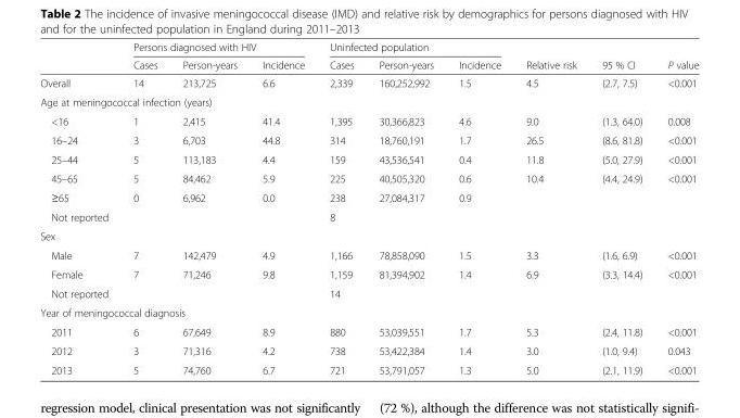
<table><thead><tr><td rowspan="2"></td><td colspan="3">Persons diagnosed with HIV</td><td colspan="3">Uninfected population</td><td rowspan="2">Relative risk</td><td rowspan="2">95 % CI</td><td rowspan="2">P value</td></tr><tr><td>Cases</td><td>Person-years</td><td>Incidence</td><td>Cases</td><td>Person-years</td><td>Incidence</td></tr></thead><tbody><tr><td>Overall</td><td>14</td><td>213,725</td><td>6.6</td><td>2,339</td><td>160,252,992</td><td>1.5</td><td>4.5</td><td>(2.7, 7.5)</td><td>&lt;0.001</td></tr><tr><td colspan="10">Age at meningococcal infection (years)</td></tr><tr><td>&lt;16</td><td>1</td><td>2,415</td><td>41.4</td><td>1,395</td><td>30,366,823</td><td>4.6</td><td>9.0</td><td>(1.3, 64.0)</td><td>0.008</td></tr><tr><td>16–24</td><td>3</td><td>6,703</td><td>44.8</td><td>314</td><td>18,760,191</td><td>1.7</td><td>26.5</td><td>(8.6, 81.8)</td><td>&lt;0.001</td></tr><tr><td>25–44</td><td>5</td><td>113,183</td><td>4.4</td><td>159</td><td>43,536,541</td><td>0.4</td><td>11.8</td><td>(5.0, 27.9)</td><td>&lt;0.001</td></tr><tr><td>45–65</td><td>5</td><td>84,462</td><td>5.9</td><td>225</td><td>40,505,320</td><td>0.6</td><td>10.4</td><td>(4.4, 24.9)</td><td>&lt;0.001</td></tr><tr><td>≥65</td><td>0</td><td>6,962</td><td>0.0</td><td>238</td><td>27,084,317</td><td>0.9</td><td></td><td></td><td></td></tr><tr><td>Not reported</td><td></td><td></td><td></td><td>8</td><td></td><td></td><td></td><td></td><td></td></tr><tr><td colspan="10">Sex</td></tr><tr><td>Male</td><td>7</td><td>142,479</td><td>4.9</td><td>1,166</td><td>78,858,090</td><td>1.5</td><td>3.3</td><td>(1.6, 6.9)</td><td>&lt;0.001</td></tr><tr><td>Female</td><td>7</td><td>71,246</td><td>9.8</td><td>1,159</td><td>81,394,902</td><td>1.4</td><td>6.9</td><td>(3.3, 14.4)</td><td>&lt;0.001</td></tr><tr><td>Not reported</td><td></td><td></td><td></td><td>14</td><td></td><td></td><td></td><td></td><td></td></tr><tr><td colspan="10">Year of meningococcal diagnosis</td></tr><tr><td>2011</td><td>6</td><td>67,649</td><td>8.9</td><td>880</td><td>53,039,551</td><td>1.7</td><td>5.3</td><td>(2.4, 11.8)</td><td>&lt;0.001</td></tr><tr><td>2012</td><td>3</td><td>71,316</td><td>4.2</td><td>738</td><td>53,422,384</td><td>1.4</td><td>3.0</td><td>(1.0, 9.4)</td><td>0.043</td></tr><tr><td>2013</td><td>5</td><td>74,760</td><td>6.7</td><td>721</td><td>53,791,057</td><td>1.3</td><td>5.0</td><td>(2.1, 11.9)</td><td>&lt;0.001</td></tr></tbody></table>